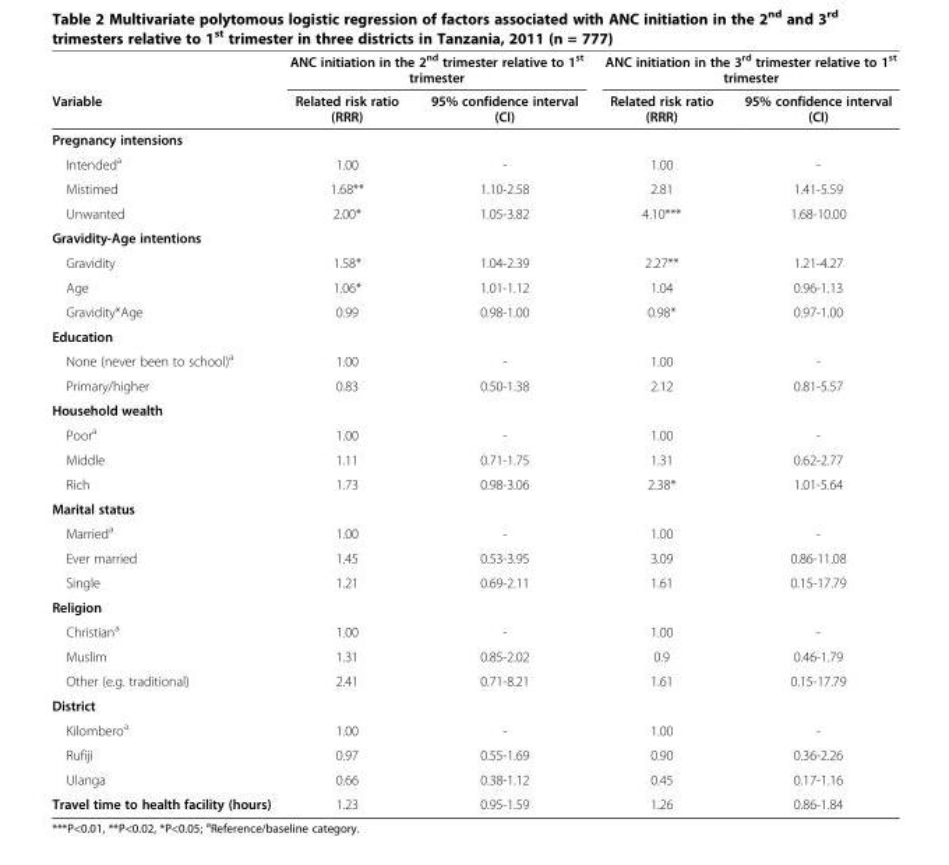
<table><thead><tr><td rowspan="2">Variable</td><td colspan="2">ANC initiation in the 2<sup>nd</sup> trimester relative to 1<sup>st</sup> trimester</td><td colspan="2">ANC initiation in the 3<sup>rd</sup> trimester relative to 1<sup>st</sup> trimester</td></tr><tr><td>Related risk ratio (RRR)</td><td>95% confidence interval (CI)</td><td>Related risk ratio (RRR)</td><td>95% confidence interval (CI)</td></tr></thead><tbody><tr><td colspan="5">Pregnancy intensions</td></tr><tr><td>Intended<sup>a</sup></td><td>1.00</td><td>-</td><td>1.00</td><td>-</td></tr><tr><td>Mistimed</td><td>1.68**</td><td>1.10-2.58</td><td>2.81</td><td>1.41-5.59</td></tr><tr><td>Unwanted</td><td>2.00*</td><td>1.05-3.82</td><td>4.10***</td><td>1.68-10.00</td></tr><tr><td colspan="5">Gravidity-Age intentions</td></tr><tr><td>Gravidity</td><td>1.58*</td><td>1.04-2.39</td><td>2.27**</td><td>1.21-4.27</td></tr><tr><td>Age</td><td>1.06*</td><td>1.01-1.12</td><td>1.04</td><td>0.96-1.13</td></tr><tr><td>Gravidity*Age</td><td>0.99</td><td>0.98-1.00</td><td>0.98*</td><td>0.97-1.00</td></tr><tr><td colspan="5">Education</td></tr><tr><td>None (never been to school)<sup>a</sup></td><td>1.00</td><td>-</td><td>1.00</td><td>-</td></tr><tr><td>Primary/higher</td><td>0.83</td><td>0.50-1.38</td><td>2.12</td><td>0.81-5.57</td></tr><tr><td colspan="5">Household wealth</td></tr><tr><td>Poor<sup>a</sup></td><td>1.00</td><td>-</td><td>1.00</td><td>-</td></tr><tr><td>Middle</td><td>1.11</td><td>0.71-1.75</td><td>1.31</td><td>0.62-2.77</td></tr><tr><td>Rich</td><td>1.73</td><td>0.98-3.06</td><td>2.38*</td><td>1.01-5.64</td></tr><tr><td colspan="5">Marital status</td></tr><tr><td>Married<sup>a</sup></td><td>1.00</td><td>-</td><td>1.00</td><td>-</td></tr><tr><td>Ever married</td><td>1.45</td><td>0.53-3.95</td><td>3.09</td><td>0.86-11.08</td></tr><tr><td>Single</td><td>1.21</td><td>0.69-2.11</td><td>1.61</td><td>0.15-17.79</td></tr><tr><td colspan="5">Religion</td></tr><tr><td>Christian<sup>a</sup></td><td>1.00</td><td>-</td><td>1.00</td><td>-</td></tr><tr><td>Muslim</td><td>1.31</td><td>0.85-2.02</td><td>0.9</td><td>0.46-1.79</td></tr><tr><td>Other (e.g. traditional)</td><td>2.41</td><td>0.71-8.21</td><td>1.61</td><td>0.15-17.79</td></tr><tr><td colspan="5">District</td></tr><tr><td>Kilombero<sup>a</sup></td><td>1.00</td><td>-</td><td>1.00</td><td>-</td></tr><tr><td>Rufiji</td><td>0.97</td><td>0.55-1.69</td><td>0.90</td><td>0.36-2.26</td></tr><tr><td>Ulanga</td><td>0.66</td><td>0.38-1.12</td><td>0.45</td><td>0.17-1.16</td></tr><tr><td>Travel time to health facility (hours)</td><td>1.23</td><td>0.95-1.59</td><td>1.26</td><td>0.86-1.84</td></tr></tbody></table>